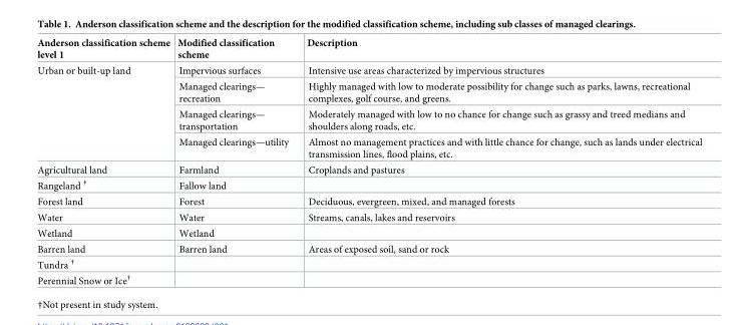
<table><thead><tr><td>Anderson classification scheme level 1</td><td>Modified classification scheme</td><td>Description</td></tr></thead><tbody><tr><td rowspan="4">Urban or built-up land</td><td>Impervious surfaces</td><td>Intensive use areas characterized by impervious structures</td></tr><tr><td>Managed clearings— recreation</td><td>Highly managed with low to moderate possibility for change such as parks, lawns, recreational complexes, golf course, and greens.</td></tr><tr><td>Managed clearings— transportation</td><td>Moderately managed with low to no chance for change such as grassy and treed medians and shoulders along roads, etc.</td></tr><tr><td>Managed clearings—utility</td><td>Almost no management practices and with little chance for change, such as lands under electrical transmission lines, flood plains, etc.</td></tr><tr><td>Agricultural land</td><td>Farmland</td><td>Croplands and pastures</td></tr><tr><td>Rangeland <sup>†</sup></td><td>Fallow land</td><td></td></tr><tr><td>Forest land</td><td>Forest</td><td>Deciduous, evergreen, mixed, and managed forests</td></tr><tr><td>Water</td><td>Water</td><td>Streams, canals, lakes and reservoirs</td></tr><tr><td>Wetland</td><td>Wetland</td><td></td></tr><tr><td>Barren land</td><td>Barren land</td><td>Areas of exposed soil, sand or rock</td></tr><tr><td colspan="3">Tundra <sup>†</sup></td></tr><tr><td>Perennial Snow or Ice<sup>†</sup></td><td></td><td></td></tr></tbody></table>